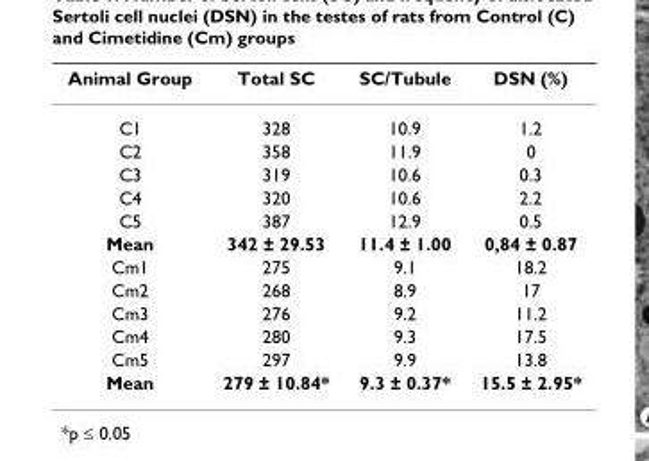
<table><thead><tr><td>Animal Group</td><td>Total SC</td><td>SC/Tubule</td><td>DSN (%)</td></tr></thead><tbody><tr><td>C1</td><td>328</td><td>10.9</td><td>1.2</td></tr><tr><td>C2</td><td>358</td><td>11.9</td><td>0</td></tr><tr><td>C3</td><td>319</td><td>10.6</td><td>0.3</td></tr><tr><td>C4</td><td>320</td><td>10.6</td><td>2.2</td></tr><tr><td>C5</td><td>387</td><td>12.9</td><td>0.5</td></tr><tr><td>Mean</td><td>342 ± 29.53</td><td>11.4 ± 1.00</td><td>0,84 ± 0.87</td></tr><tr><td>Cm1</td><td>275</td><td>9.1</td><td>18.2</td></tr><tr><td>Cm2</td><td>268</td><td>8.9</td><td>17</td></tr><tr><td>Cm3</td><td>276</td><td>9.2</td><td>11.2</td></tr><tr><td>Cm4</td><td>280</td><td>9.3</td><td>17.5</td></tr><tr><td>Cm5</td><td>297</td><td>9.9</td><td>13.8</td></tr><tr><td>Mean</td><td>279 ± 10.84*</td><td>9.3 ± 0.37*</td><td>15.5 ± 2.95*</td></tr></tbody></table>